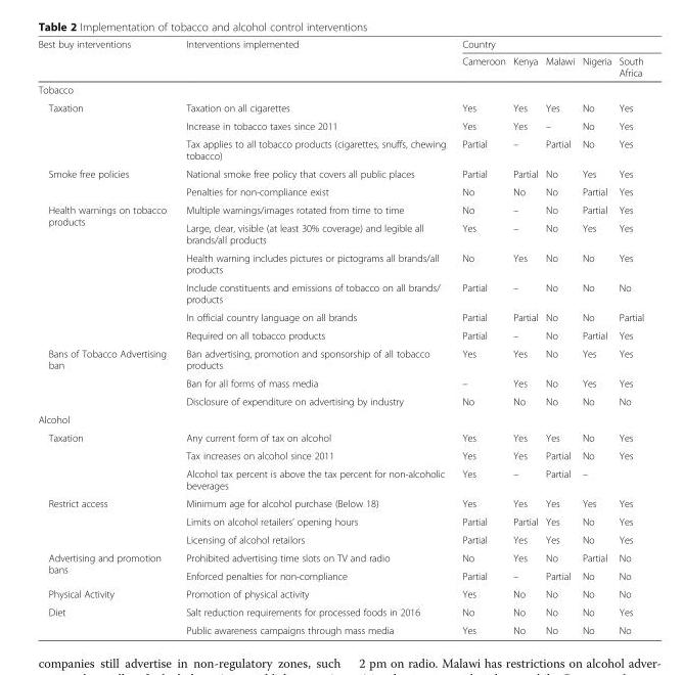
<table><thead><tr><td rowspan="2">Best buy interventions</td><td rowspan="2">Interventions implemented</td><td colspan="5">Country</td></tr><tr><td>Cameroon</td><td>Kenya</td><td>Malawi</td><td>Nigeria</td><td>South Africa</td></tr></thead><tbody><tr><td colspan="7">Tobacco</td></tr><tr><td rowspan="3">Taxation</td><td>Taxation on all cigarettes</td><td>Yes</td><td>Yes</td><td>Yes</td><td>No</td><td>Yes</td></tr><tr><td>Increase in tobacco taxes since 2011</td><td>Yes</td><td>Yes</td><td>–</td><td>No</td><td>Yes</td></tr><tr><td>Tax applies to all tobacco products (cigarettes, snuffs, chewing tobacco)</td><td>Partial</td><td>–</td><td>Partial</td><td>No</td><td>Yes</td></tr><tr><td rowspan="2">Smoke free policies</td><td>National smoke free policy that covers all public places</td><td>Partial</td><td>Partial</td><td>No</td><td>Yes</td><td>Yes</td></tr><tr><td>Penalties for non-compliance exist</td><td>No</td><td>No</td><td>No</td><td>Partial</td><td>Yes</td></tr><tr><td rowspan="6">Health warnings on tobacco products</td><td>Multiple warnings/images rotated from time to time</td><td>No</td><td>–</td><td>No</td><td>Partial</td><td>Yes</td></tr><tr><td>Large, clear, visible (at least 30% coverage) and legible all brands/all products</td><td>Yes</td><td>–</td><td>No</td><td>Yes</td><td>Yes</td></tr><tr><td>Health warning includes pictures or pictograms all brands/all products</td><td>No</td><td>Yes</td><td>No</td><td>No</td><td>Yes</td></tr><tr><td>Include constituents and emissions of tobacco on all brands/ products</td><td>Partial</td><td>–</td><td>No</td><td>No</td><td>No</td></tr><tr><td>In official country language on all brands</td><td>Partial</td><td>Partial</td><td>No</td><td>No</td><td>Partial</td></tr><tr><td>Required on all tobacco products</td><td>Partial</td><td>–</td><td>No</td><td>Partial</td><td>Yes</td></tr><tr><td rowspan="3">Bans of Tobacco Advertising ban</td><td>Ban advertising, promotion and sponsorship of all tobacco products</td><td>Yes</td><td>Yes</td><td>No</td><td>Yes</td><td>Yes</td></tr><tr><td>Ban for all forms of mass media</td><td>–</td><td>Yes</td><td>No</td><td>Yes</td><td>Yes</td></tr><tr><td>Disclosure of expenditure on advertising by industry</td><td>No</td><td>No</td><td>No</td><td>No</td><td>No</td></tr><tr><td colspan="7">Alcohol</td></tr><tr><td rowspan="3">Taxation</td><td>Any current form of tax on alcohol</td><td>Yes</td><td>Yes</td><td>Yes</td><td>No</td><td>Yes</td></tr><tr><td>Tax increases on alcohol since 2011</td><td>Yes</td><td>Yes</td><td>Partial</td><td>No</td><td>Yes</td></tr><tr><td>Alcohol tax percent is above the tax percent for non-alcoholic beverages</td><td>Yes</td><td>–</td><td>Partial</td><td>–</td><td></td></tr><tr><td rowspan="3">Restrict access</td><td>Minimum age for alcohol purchase (Below 18)</td><td>Yes</td><td>Yes</td><td>Yes</td><td>Yes</td><td>Yes</td></tr><tr><td>Limits on alcohol retailers’ opening hours</td><td>Partial</td><td>Partial</td><td>Yes</td><td>No</td><td>Yes</td></tr><tr><td>Licensing of alcohol retailors</td><td>Partial</td><td>Yes</td><td>Yes</td><td>No</td><td>Yes</td></tr><tr><td rowspan="2">Advertising and promotion bans</td><td>Prohibited advertising time slots on TV and radio</td><td>No</td><td>Yes</td><td>No</td><td>Partial</td><td>No</td></tr><tr><td>Enforced penalties for non-compliance</td><td>Partial</td><td>–</td><td>Partial</td><td>No</td><td>No</td></tr><tr><td>Physical Activity</td><td>Promotion of physical activity</td><td>Yes</td><td>No</td><td>No</td><td>No</td><td>No</td></tr><tr><td rowspan="2">Diet</td><td>Salt reduction requirements for processed foods in 2016</td><td>No</td><td>No</td><td>No</td><td>No</td><td>Yes</td></tr><tr><td>Public awareness campaigns through mass media</td><td>Yes</td><td>No</td><td>No</td><td>No</td><td>No</td></tr></tbody></table>